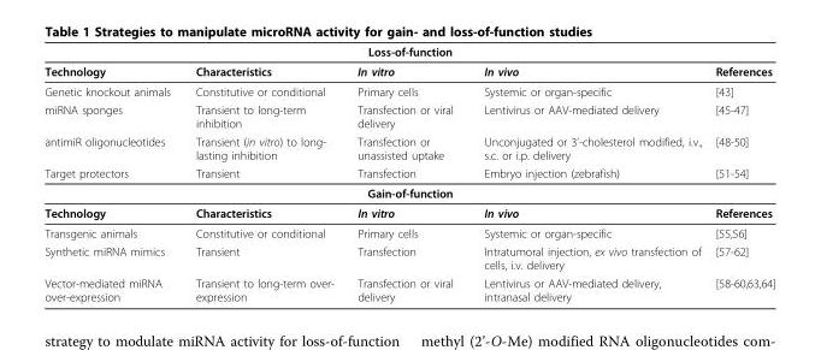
<table><thead><tr><td colspan="5">Loss-of-function</td></tr><tr><td>Technology</td><td>Characteristics</td><td>In vitro</td><td>In vivo</td><td>References</td></tr></thead><tbody><tr><td>Genetic knockout animals</td><td>Constitutive or conditional</td><td>Primary cells</td><td>Systemic or organ-specific</td><td>[43]</td></tr><tr><td>miRNA sponges</td><td>Transient to long-term inhibition</td><td>Transfection or viral delivery</td><td>Lentivirus or AAV-mediated delivery</td><td>[45-47]</td></tr><tr><td>antimiR oligonucleotides</td><td>Transient (in vitro) to long- lasting inhibition</td><td>Transfection or unassisted uptake</td><td>Unconjugated or 3’-cholesterol modified, i.v., s.c. or i.p. delivery</td><td>[48-50]</td></tr><tr><td>Target protectors</td><td>Transient</td><td>Transfection</td><td>Embryo injection (zebrafish)</td><td>[51-54]</td></tr><tr><td colspan="5">Gain-of-function</td></tr><tr><td>Technology</td><td>Characteristics</td><td>In vitro</td><td>In vivo</td><td>References</td></tr><tr><td>Transgenic animals</td><td>Constitutive or conditional</td><td>Primary cells</td><td>Systemic or organ-specific</td><td>[55,56]</td></tr><tr><td>Synthetic miRNA mimics</td><td>Transient</td><td>Transfection</td><td>Intratumoral injection, ex vivo transfection of cells, i.v. delivery</td><td>[57-62]</td></tr><tr><td>Vector-mediated miRNA over-expression</td><td>Transient to long-term over- expression</td><td>Transfection or viral delivery</td><td>Lentivirus or AAV-mediated delivery, intranasal delivery</td><td>[58-60,63,64]</td></tr></tbody></table>